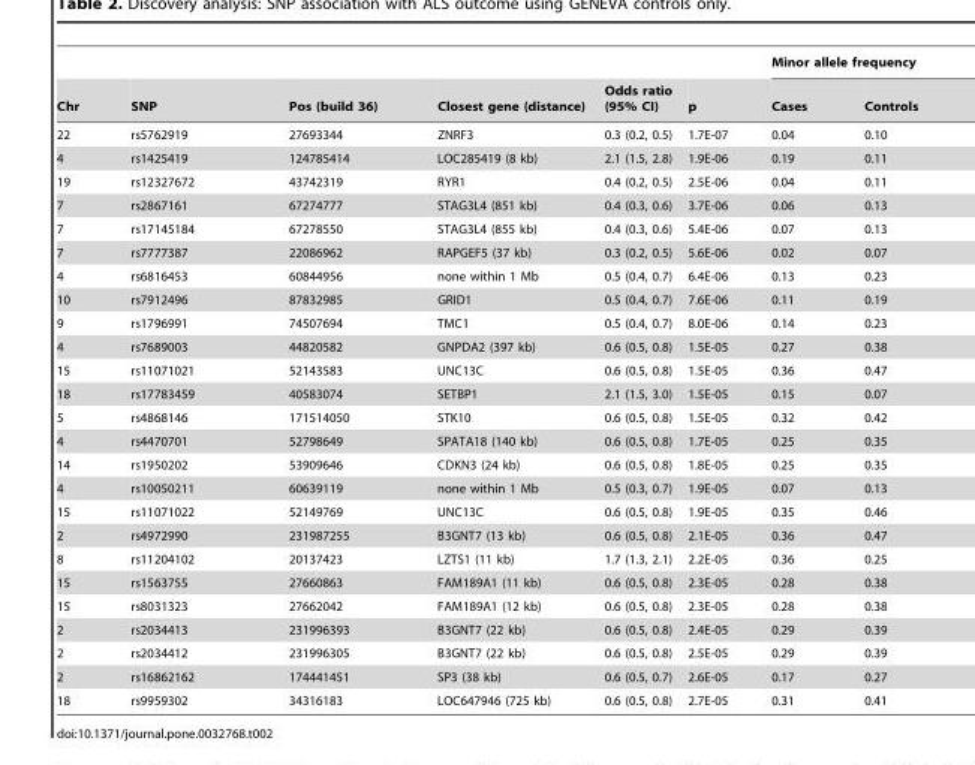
<table><thead><tr><td rowspan="2">Chr</td><td rowspan="2">SNP</td><td rowspan="2">Pos (build 36)</td><td rowspan="2">Closest gene (distance)</td><td rowspan="2">Odds ratio (95% CI)</td><td rowspan="2">p</td><td colspan="2">Minor allele frequency</td></tr><tr><td>Cases</td><td>Controls</td></tr></thead><tbody><tr><td>22</td><td>rs5762919</td><td>27693344</td><td>ZNRF3</td><td>0.3 (0.2, 0.5)</td><td>1.7E-07</td><td>0.04</td><td>0.10</td></tr><tr><td>4</td><td>rs1425419</td><td>124785414</td><td>LOC285419 (8 kb)</td><td>2.1 (1.5, 2.8)</td><td>1.9E-06</td><td>0.19</td><td>0.11</td></tr><tr><td>19</td><td>rs12327672</td><td>43742319</td><td>RYR1</td><td>0.4 (0.2, 0.5)</td><td>2.5E-06</td><td>0.04</td><td>0.11</td></tr><tr><td>7</td><td>rs2867161</td><td>67274777</td><td>STAG3L4 (851 kb)</td><td>0.4 (0.3, 0.6)</td><td>3.7E-06</td><td>0.06</td><td>0.13</td></tr><tr><td>7</td><td>rs17145184</td><td>67278550</td><td>STAG3L4 (855 kb)</td><td>0.4 (0.3, 0.6)</td><td>5.4E-06</td><td>0.07</td><td>0.13</td></tr><tr><td>7</td><td>rs7777387</td><td>22086962</td><td>RAPGEF5 (37 kb)</td><td>0.3 (0.2, 0.5)</td><td>5.6E-06</td><td>0.02</td><td>0.07</td></tr><tr><td>4</td><td>rs6816453</td><td>60844956</td><td>none within 1 Mb</td><td>0.5 (0.4, 0.7)</td><td>6.4E-06</td><td>0.13</td><td>0.23</td></tr><tr><td>10</td><td>rs7912496</td><td>87832985</td><td>GRID1</td><td>0.5 (0.4, 0.7)</td><td>7.6E-06</td><td>0.11</td><td>0.19</td></tr><tr><td>9</td><td>rs1796991</td><td>74507694</td><td>TMC1</td><td>0.5 (0.4, 0.7)</td><td>8.0E-06</td><td>0.14</td><td>0.23</td></tr><tr><td>4</td><td>rs7689003</td><td>44820582</td><td>GNPDA2 (397 kb)</td><td>0.6 (0.5, 0.8)</td><td>1.5E-05</td><td>0.27</td><td>0.38</td></tr><tr><td>15</td><td>rs11071021</td><td>52143583</td><td>UNC13C</td><td>0.6 (0.5, 0.8)</td><td>1.5E-05</td><td>0.36</td><td>0.47</td></tr><tr><td>18</td><td>rs17783459</td><td>40583074</td><td>SETBP1</td><td>2.1 (1.5, 3.0)</td><td>1.5E-05</td><td>0.15</td><td>0.07</td></tr><tr><td>5</td><td>rs4868146</td><td>171514050</td><td>STK10</td><td>0.6 (0.5, 0.8)</td><td>1.5E-05</td><td>0.32</td><td>0.42</td></tr><tr><td>4</td><td>rs4470701</td><td>52798649</td><td>SPATA18 (140 kb)</td><td>0.6 (0.5, 0.8)</td><td>1.7E-05</td><td>0.25</td><td>0.35</td></tr><tr><td>14</td><td>rs1950202</td><td>53909646</td><td>CDKN3 (24 kb)</td><td>0.6 (0.5, 0.8)</td><td>1.8E-05</td><td>0.25</td><td>0.35</td></tr><tr><td>4</td><td>rs10050211</td><td>60639119</td><td>none within 1 Mb</td><td>0.5 (0.3, 0.7)</td><td>1.9E-05</td><td>0.07</td><td>0.13</td></tr><tr><td>15</td><td>rs11071022</td><td>52149769</td><td>UNC13C</td><td>0.6 (0.5, 0.8)</td><td>1.9E-05</td><td>0.35</td><td>0.46</td></tr><tr><td>2</td><td>rs4972990</td><td>231987255</td><td>B3GNT7 (13 kb)</td><td>0.6 (0.5, 0.8)</td><td>2.1E-05</td><td>0.36</td><td>0.47</td></tr><tr><td>8</td><td>rs11204102</td><td>20137423</td><td>LZTS1 (11 kb)</td><td>1.7 (1.3, 2.1)</td><td>2.2E-05</td><td>0.36</td><td>0.25</td></tr><tr><td>15</td><td>rs1563755</td><td>27660863</td><td>FAM189A1 (11 kb)</td><td>0.6 (0.5, 0.8)</td><td>2.3E-05</td><td>0.28</td><td>0.38</td></tr><tr><td>15</td><td>rs8031323</td><td>27662042</td><td>FAM189A1 (12 kb)</td><td>0.6 (0.5, 0.8)</td><td>2.3E-05</td><td>0.28</td><td>0.38</td></tr><tr><td>2</td><td>rs2034413</td><td>231996393</td><td>B3GNT7 (22 kb)</td><td>0.6 (0.5, 0.8)</td><td>2.4E-05</td><td>0.29</td><td>0.39</td></tr><tr><td>2</td><td>rs2034412</td><td>231996305</td><td>B3GNT7 (22 kb)</td><td>0.6 (0.5, 0.8)</td><td>2.5E-05</td><td>0.29</td><td>0.39</td></tr><tr><td>2</td><td>rs16862162</td><td>174441451</td><td>SP3 (38 kb)</td><td>0.6 (0.5, 0.7)</td><td>2.6E-05</td><td>0.17</td><td>0.27</td></tr><tr><td>18</td><td>rs9959302</td><td>34316183</td><td>LOC647946 (725 kb)</td><td>0.6 (0.5, 0.8)</td><td>2.7E-05</td><td>0.31</td><td>0.41</td></tr></tbody></table>